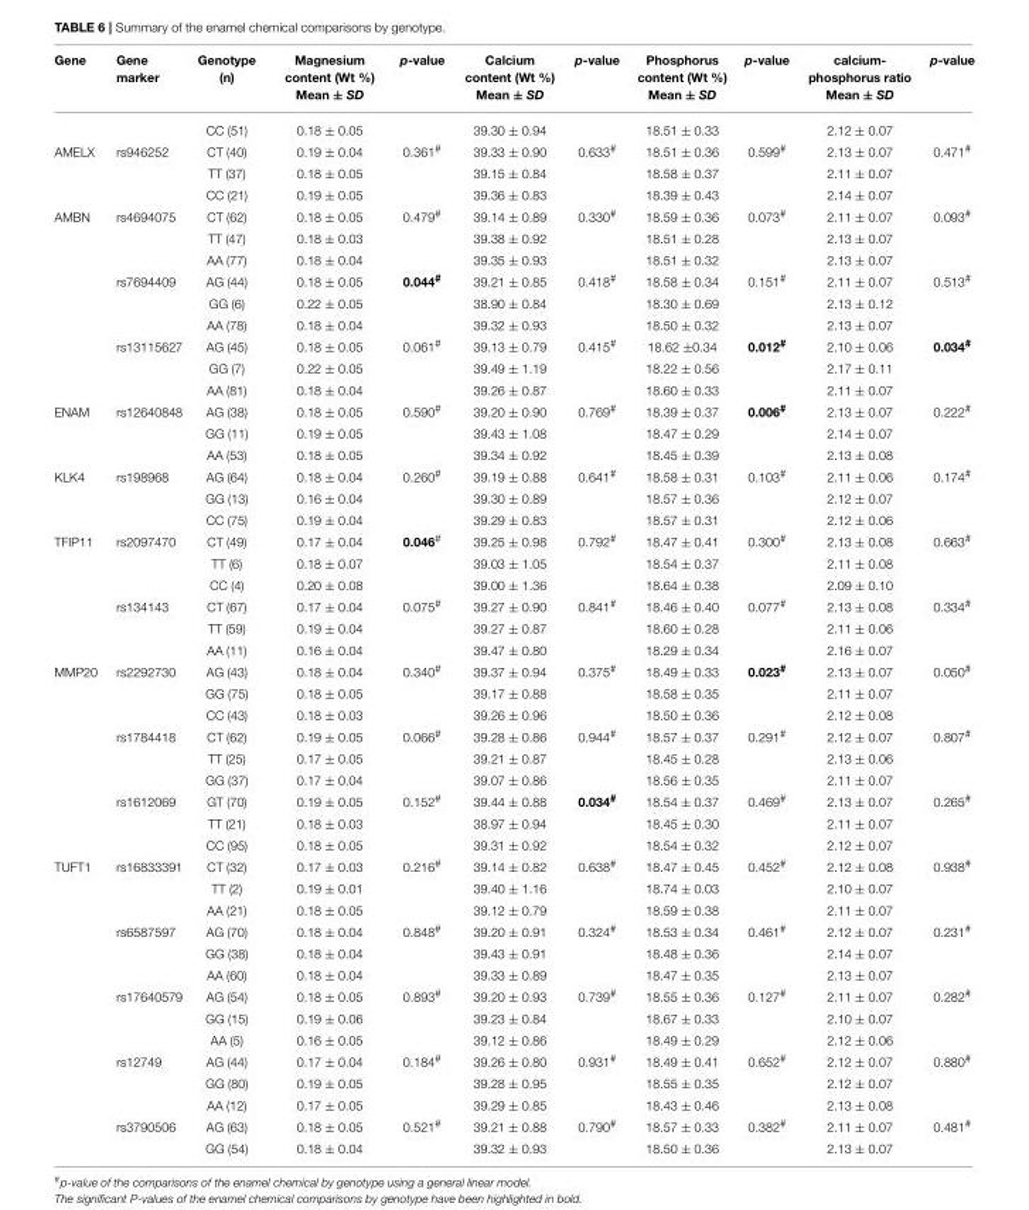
<table><thead><tr><td>Gene</td><td>Gene marker</td><td>Genotype (n)</td><td>Magnesium content (Wt %) Mean ± SD</td><td>p-value</td><td>Calcium content (Wt %) Mean ± SD</td><td>p-value</td><td>Phosphorus content (Wt %) Mean ± SD</td><td>p-value</td><td>calcium- phosphorus ratio Mean ± SD</td><td>p-value</td></tr></thead><tbody><tr><td></td><td></td><td>CC (51)</td><td>0.18 ± 0.05</td><td></td><td>39.30 ± 0.94</td><td></td><td>18.51 ± 0.33</td><td></td><td>2.12 ± 0.07</td><td></td></tr><tr><td rowspan="3">AMELX</td><td>rs946252</td><td>CT (40)</td><td>0.19 ± 0.04</td><td>0.361<sup>#</sup></td><td>39.33 ± 0.90</td><td>0.633<sup>#</sup></td><td>18.51 ± 0.36</td><td>0.599<sup>#</sup></td><td>2.13 ± 0.07</td><td>0.471<sup>#</sup></td></tr><tr><td></td><td>TT (37)</td><td>0.18 ± 0.05</td><td></td><td>39.15 ± 0.84</td><td></td><td>18.58 ± 0.37</td><td></td><td>2.11 ± 0.07</td><td></td></tr><tr><td></td><td>CC (21)</td><td>0.19 ± 0.05</td><td></td><td>39.36 ± 0.83</td><td></td><td>18.39 ± 0.43</td><td></td><td>2.14 ± 0.07</td><td></td></tr><tr><td rowspan="9">AMBN</td><td>rs4694075</td><td>CT (62)</td><td>0.18 ± 0.05</td><td>0.479<sup>#</sup></td><td>39.14 ± 0.89</td><td>0.330<sup>#</sup></td><td>18.59 ± 0.36</td><td>0.073<sup>#</sup></td><td>2.11 ± 0.07</td><td>0.093<sup>#</sup></td></tr><tr><td></td><td>TT (47)</td><td>0.18 ± 0.03</td><td></td><td>39.38 ± 0.92</td><td></td><td>18.51 ± 0.28</td><td></td><td>2.13 ± 0.07</td><td></td></tr><tr><td></td><td>AA (77)</td><td>0.18 ± 0.04</td><td></td><td>39.35 ± 0.93</td><td></td><td>18.51 ± 0.32</td><td></td><td>2.13 ± 0.07</td><td></td></tr><tr><td>rs7694409</td><td>AG (44)</td><td>0.18 ± 0.05</td><td>0.044<sup>#</sup></td><td>39.21 ± 0.85</td><td>0.418<sup>#</sup></td><td>18.58 ± 0.34</td><td>0.151<sup>#</sup></td><td>2.11 ± 0.07</td><td>0.513<sup>#</sup></td></tr><tr><td></td><td>GG (6)</td><td>0.22 ± 0.05</td><td></td><td>38.90 ± 0.84</td><td></td><td>18.30 ± 0.69</td><td></td><td>2.13 ± 0.12</td><td></td></tr><tr><td></td><td>AA (78)</td><td>0.18 ± 0.04</td><td></td><td>39.32 ± 0.93</td><td></td><td>18.50 ± 0.32</td><td></td><td>2.13 ± 0.07</td><td></td></tr><tr><td>rs13115627</td><td>AG (45)</td><td>0.18 ± 0.05</td><td>0.061<sup>#</sup></td><td>39.13 ± 0.79</td><td>0.415<sup>#</sup></td><td>18.62 ±0.34</td><td>0.012<sup>#</sup></td><td>2.10 ± 0.06</td><td>0.034<sup>#</sup></td></tr><tr><td></td><td>GG (7)</td><td>0.22 ± 0.05</td><td></td><td>39.49 ± 1.19</td><td></td><td>18.22 ± 0.56</td><td></td><td>2.17 ± 0.11</td><td></td></tr><tr><td></td><td>AA (81)</td><td>0.18 ± 0.04</td><td></td><td>39.26 ± 0.87</td><td></td><td>18.60 ± 0.33</td><td></td><td>2.11 ± 0.07</td><td></td></tr><tr><td rowspan="3">ENAM</td><td>rs12640848</td><td>AG (38)</td><td>0.18 ± 0.05</td><td>0.590<sup>#</sup></td><td>39.20 ± 0.90</td><td>0.769<sup>#</sup></td><td>18.39 ± 0.37</td><td>0.006<sup>#</sup></td><td>2.13 ± 0.07</td><td>0.222<sup>#</sup></td></tr><tr><td></td><td>GG (11)</td><td>0.19 ± 0.05</td><td></td><td>39.43 ± 1.08</td><td></td><td>18.47 ± 0.29</td><td></td><td>2.14 ± 0.07</td><td></td></tr><tr><td></td><td>AA (53)</td><td>0.18 ± 0.05</td><td></td><td>39.34 ± 0.92</td><td></td><td>18.45 ± 0.39</td><td></td><td>2.13 ± 0.08</td><td></td></tr><tr><td rowspan="3">KLK4</td><td>rs198968</td><td>AG (64)</td><td>0.18 ± 0.04</td><td>0.260<sup>#</sup></td><td>39.19 ± 0.88</td><td>0.641<sup>#</sup></td><td>18.58 ± 0.31</td><td>0.103<sup>#</sup></td><td>2.11 ± 0.06</td><td>0.174<sup>#</sup></td></tr><tr><td></td><td>GG (13)</td><td>0.16 ± 0.04</td><td></td><td>39.30 ± 0.89</td><td></td><td>18.57 ± 0.36</td><td></td><td>2.12 ± 0.07</td><td></td></tr><tr><td></td><td>CC (75)</td><td>0.19 ± 0.04</td><td></td><td>39.29 ± 0.83</td><td></td><td>18.57 ± 0.31</td><td></td><td>2.12 ± 0.06</td><td></td></tr><tr><td rowspan="6">TFIP11</td><td>rs2097470</td><td>CT (49)</td><td>0.17 ± 0.04</td><td>0.046<sup>#</sup></td><td>39.25 ± 0.98</td><td>0.792<sup>#</sup></td><td>18.47 ± 0.41</td><td>0.300<sup>#</sup></td><td>2.13 ± 0.08</td><td>0.663<sup>#</sup></td></tr><tr><td></td><td>TT (6)</td><td>0.18 ± 0.07</td><td></td><td>39.03 ± 1.05</td><td></td><td>18.54 ± 0.37</td><td></td><td>2.11 ± 0.08</td><td></td></tr><tr><td></td><td>CC (4)</td><td>0.20 ± 0.08</td><td></td><td>39.00 ± 1.36</td><td></td><td>18.64 ± 0.38</td><td></td><td>2.09 ± 0.10</td><td></td></tr><tr><td>rs134143</td><td>CT (67)</td><td>0.17 ± 0.04</td><td>0.075<sup>#</sup></td><td>39.27 ± 0.90</td><td>0.841<sup>#</sup></td><td>18.46 ± 0.40</td><td>0.077<sup>#</sup></td><td>2.13 ± 0.08</td><td>0.334<sup>#</sup></td></tr><tr><td></td><td>TT (59)</td><td>0.19 ± 0.04</td><td></td><td>39.27 ± 0.87</td><td></td><td>18.60 ± 0.28</td><td></td><td>2.11 ± 0.06</td><td></td></tr><tr><td></td><td>AA (11)</td><td>0.16 ± 0.04</td><td></td><td>39.47 ± 0.80</td><td></td><td>18.29 ± 0.34</td><td></td><td>2.16 ± 0.07</td><td></td></tr><tr><td rowspan="9">MMP20</td><td>rs2292730</td><td>AG (43)</td><td>0.18 ± 0.04</td><td>0.340<sup>#</sup></td><td>39.37 ± 0.94</td><td>0.375<sup>#</sup></td><td>18.49 ± 0.33</td><td>0.023<sup>#</sup></td><td>2.13 ± 0.07</td><td>0.050<sup>#</sup></td></tr><tr><td></td><td>GG (75)</td><td>0.18 ± 0.05</td><td></td><td>39.17 ± 0.88</td><td></td><td>18.58 ± 0.35</td><td></td><td>2.11 ± 0.07</td><td></td></tr><tr><td></td><td>CC (43)</td><td>0.18 ± 0.03</td><td></td><td>39.26 ± 0.96</td><td></td><td>18.50 ± 0.36</td><td></td><td>2.12 ± 0.08</td><td></td></tr><tr><td>rs1784418</td><td>CT (62)</td><td>0.19 ± 0.05</td><td>0.066<sup>#</sup></td><td>39.28 ± 0.86</td><td>0.944<sup>#</sup></td><td>18.57 ± 0.37</td><td>0.291<sup>#</sup></td><td>2.12 ± 0.07</td><td>0.807<sup>#</sup></td></tr><tr><td></td><td>TT (25)</td><td>0.17 ± 0.05</td><td></td><td>39.21 ± 0.87</td><td></td><td>18.45 ± 0.28</td><td></td><td>2.13 ± 0.06</td><td></td></tr><tr><td></td><td>GG (37)</td><td>0.17 ± 0.04</td><td></td><td>39.07 ± 0.86</td><td></td><td>18.56 ± 0.35</td><td></td><td>2.11 ± 0.07</td><td></td></tr><tr><td>rs1612069</td><td>GT (70)</td><td>0.19 ± 0.05</td><td>0.152<sup>#</sup></td><td>39.44 ± 0.88</td><td>0.034<sup>#</sup></td><td>18.54 ± 0.37</td><td>0.469<sup>#</sup></td><td>2.13 ± 0.07</td><td>0.265<sup>#</sup></td></tr><tr><td></td><td>TT (21)</td><td>0.18 ± 0.03</td><td></td><td>38.97 ± 0.94</td><td></td><td>18.45 ± 0.30</td><td></td><td>2.11 ± 0.07</td><td></td></tr><tr><td></td><td>CC (95)</td><td>0.18 ± 0.05</td><td></td><td>39.31 ± 0.92</td><td></td><td>18.54 ± 0.32</td><td></td><td>2.12 ± 0.07</td><td></td></tr><tr><td rowspan="14">TUFT1</td><td>rs16833391</td><td>CT (32)</td><td>0.17 ± 0.03</td><td>0.216<sup>#</sup></td><td>39.14 ± 0.82</td><td>0.638<sup>#</sup></td><td>18.47 ± 0.45</td><td>0.452<sup>#</sup></td><td>2.12 ± 0.08</td><td>0.938<sup>#</sup></td></tr><tr><td></td><td>TT (2)</td><td>0.19 ± 0.01</td><td></td><td>39.40 ± 1.16</td><td></td><td>18.74 ± 0.03</td><td></td><td>2.10 ± 0.07</td><td></td></tr><tr><td></td><td>AA (21)</td><td>0.18 ± 0.05</td><td></td><td>39.12 ± 0.79</td><td></td><td>18.59 ± 0.38</td><td></td><td>2.11 ± 0.07</td><td></td></tr><tr><td>rs6587597</td><td>AG (70)</td><td>0.18 ± 0.04</td><td>0.848<sup>#</sup></td><td>39.20 ± 0.91</td><td>0.324<sup>#</sup></td><td>18.53 ± 0.34</td><td>0.461<sup>#</sup></td><td>2.12 ± 0.07</td><td>0.231<sup>#</sup></td></tr><tr><td></td><td>GG (38)</td><td>0.18 ± 0.04</td><td></td><td>39.43 ± 0.91</td><td></td><td>18.48 ± 0.36</td><td></td><td>2.14 ± 0.07</td><td></td></tr><tr><td></td><td>AA (60)</td><td>0.18 ± 0.04</td><td></td><td>39.33 ± 0.89</td><td></td><td>18.47 ± 0.35</td><td></td><td>2.13 ± 0.07</td><td></td></tr><tr><td>rs17640579</td><td>AG (54)</td><td>0.18 ± 0.05</td><td>0.893<sup>#</sup></td><td>39.20 ± 0.93</td><td>0.739<sup>#</sup></td><td>18.55 ± 0.36</td><td>0.127<sup>#</sup></td><td>2.11 ± 0.07</td><td>0.282<sup>#</sup></td></tr><tr><td></td><td>GG (15)</td><td>0.19 ± 0.06</td><td></td><td>39.23 ± 0.84</td><td></td><td>18.67 ± 0.33</td><td></td><td>2.10 ± 0.07</td><td></td></tr><tr><td></td><td>AA (5)</td><td>0.16 ± 0.05</td><td></td><td>39.12 ± 0.86</td><td></td><td>18.49 ± 0.29</td><td></td><td>2.12 ± 0.06</td><td></td></tr><tr><td>rs12749</td><td>AG (44)</td><td>0.17 ± 0.04</td><td>0.184<sup>#</sup></td><td>39.26 ± 0.80</td><td>0.931<sup>#</sup></td><td>18.49 ± 0.41</td><td>0.652<sup>#</sup></td><td>2.12 ± 0.07</td><td>0.880<sup>#</sup></td></tr><tr><td></td><td>GG (80)</td><td>0.19 ± 0.05</td><td></td><td>39.28 ± 0.95</td><td></td><td>18.55 ± 0.35</td><td></td><td>2.12 ± 0.07</td><td></td></tr><tr><td></td><td>AA (12)</td><td>0.17 ± 0.05</td><td></td><td>39.29 ± 0.85</td><td></td><td>18.43 ± 0.46</td><td></td><td>2.13 ± 0.08</td><td></td></tr><tr><td>rs3790506</td><td>AG (63)</td><td>0.18 ± 0.05</td><td>0.521<sup>#</sup></td><td>39.21 ± 0.88</td><td>0.790<sup>#</sup></td><td>18.57 ± 0.33</td><td>0.382<sup>#</sup></td><td>2.11 ± 0.07</td><td>0.481<sup>#</sup></td></tr><tr><td></td><td>GG (54)</td><td>0.18 ± 0.04</td><td></td><td>39.32 ± 0.93</td><td></td><td>18.50 ± 0.36</td><td></td><td>2.13 ± 0.07</td><td></td></tr></tbody></table>